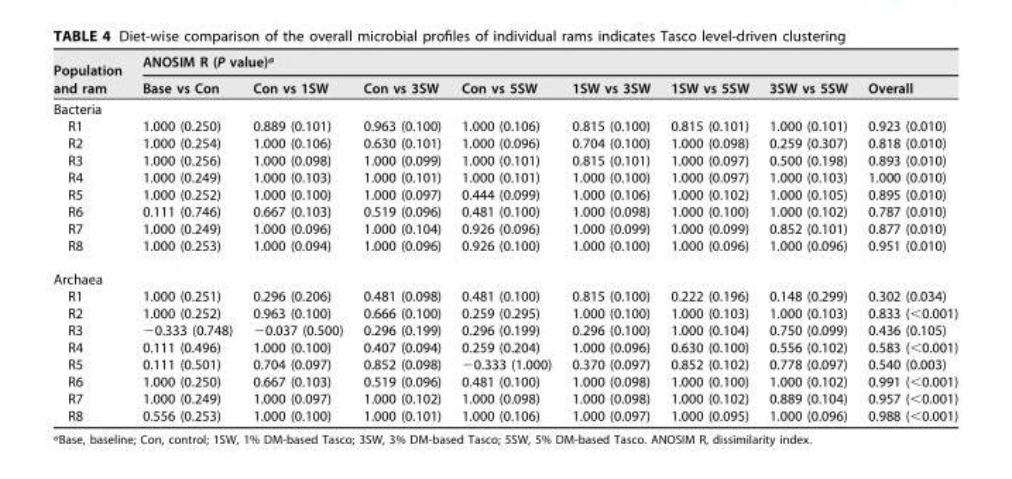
<table><thead><tr><td rowspan="2">Population and ram</td><td colspan="8">ANOSIM R (P value)<sup>a</sup></td></tr><tr><td>Base vs Con</td><td>Con vs 1SW</td><td>Con vs 3SW</td><td>Con vs 5SW</td><td>1SW vs 3SW</td><td>1SW vs 5SW</td><td>3SW vs 5SW</td><td>Overall</td></tr></thead><tbody><tr><td colspan="9">Bacteria</td></tr><tr><td>R1</td><td>1.000 (0.250)</td><td>0.889 (0.101)</td><td>0.963 (0.100)</td><td>1.000 (0.106)</td><td>0.815 (0.100)</td><td>0.815 (0.101)</td><td>1.000 (0.101)</td><td>0.923 (0.010)</td></tr><tr><td>R2</td><td>1.000 (0.254)</td><td>1.000 (0.106)</td><td>0.630 (0.101)</td><td>1.000 (0.096)</td><td>0.704 (0.100)</td><td>1.000 (0.098)</td><td>0.259 (0.307)</td><td>0.818 (0.010)</td></tr><tr><td>R3</td><td>1.000 (0.256)</td><td>1.000 (0.098)</td><td>1.000 (0.099)</td><td>1.000 (0.101)</td><td>0.815 (0.101)</td><td>1.000 (0.097)</td><td>0.500 (0.198)</td><td>0.893 (0.010)</td></tr><tr><td>R4</td><td>1.000 (0.249)</td><td>1.000 (0.103)</td><td>1.000 (0.101)</td><td>1.000 (0.101)</td><td>1.000 (0.100)</td><td>1.000 (0.097)</td><td>1.000 (0.103)</td><td>1.000 (0.010)</td></tr><tr><td>R5</td><td>1.000 (0.252)</td><td>1.000 (0.100)</td><td>1.000 (0.097)</td><td>0.444 (0.099)</td><td>1.000 (0.106)</td><td>1.000 (0.102)</td><td>1.000 (0.105)</td><td>0.895 (0.010)</td></tr><tr><td>R6</td><td>0.111 (0.746)</td><td>0.667 (0.103)</td><td>0.519 (0.096)</td><td>0.481 (0.100)</td><td>1.000 (0.098)</td><td>1.000 (0.100)</td><td>1.000 (0.102)</td><td>0.787 (0.010)</td></tr><tr><td>R7</td><td>1.000 (0.249)</td><td>1.000 (0.096)</td><td>1.000 (0.104)</td><td>0.926 (0.096)</td><td>1.000 (0.099)</td><td>1.000 (0.099)</td><td>0.852 (0.101)</td><td>0.877 (0.010)</td></tr><tr><td>R8</td><td>1.000 (0.253)</td><td>1.000 (0.094)</td><td>1.000 (0.096)</td><td>0.926 (0.100)</td><td>1.000 (0.100)</td><td>1.000 (0.096)</td><td>1.000 (0.096)</td><td>0.951 (0.010)</td></tr><tr><td colspan="9">Archaea</td></tr><tr><td>R1</td><td>1.000 (0.251)</td><td>0.296 (0.206)</td><td>0.481 (0.098)</td><td>0.481 (0.100)</td><td>0.815 (0.100)</td><td>0.222 (0.196)</td><td>0.148 (0.299)</td><td>0.302 (0.034)</td></tr><tr><td>R2</td><td>1.000 (0.252)</td><td>0.963 (0.100)</td><td>0.666 (0.100)</td><td>0.259 (0.295)</td><td>1.000 (0.100)</td><td>1.000 (0.103)</td><td>1.000 (0.103)</td><td>0.833 (&lt;0.001)</td></tr><tr><td>R3</td><td>−0.333 (0.748)</td><td>−0.037 (0.500)</td><td>0.296 (0.199)</td><td>0.296 (0.199)</td><td>0.296 (0.100)</td><td>1.000 (0.104)</td><td>0.750 (0.099)</td><td>0.436 (0.105)</td></tr><tr><td>R4</td><td>0.111 (0.496)</td><td>1.000 (0.100)</td><td>0.407 (0.094)</td><td>0.259 (0.204)</td><td>1.000 (0.096)</td><td>0.630 (0.100)</td><td>0.556 (0.102)</td><td>0.583 (&lt;0.001)</td></tr><tr><td>R5</td><td>0.111 (0.501)</td><td>0.704 (0.097)</td><td>0.852 (0.098)</td><td>−0.333 (1.000)</td><td>0.370 (0.097)</td><td>0.852 (0.102)</td><td>0.778 (0.097)</td><td>0.540 (0.003)</td></tr><tr><td>R6</td><td>1.000 (0.250)</td><td>0.667 (0.103)</td><td>0.519 (0.096)</td><td>0.481 (0.100)</td><td>1.000 (0.098)</td><td>1.000 (0.100)</td><td>1.000 (0.102)</td><td>0.991 (&lt;0.001)</td></tr><tr><td>R7</td><td>1.000 (0.249)</td><td>1.000 (0.097)</td><td>1.000 (0.102)</td><td>1.000 (0.098)</td><td>1.000 (0.098)</td><td>1.000 (0.102)</td><td>0.889 (0.104)</td><td>0.957 (&lt;0.001)</td></tr><tr><td>R8</td><td>0.556 (0.253)</td><td>1.000 (0.100)</td><td>1.000 (0.101)</td><td>1.000 (0.106)</td><td>1.000 (0.097)</td><td>1.000 (0.095)</td><td>1.000 (0.096)</td><td>0.988 (&lt;0.001)</td></tr></tbody></table>